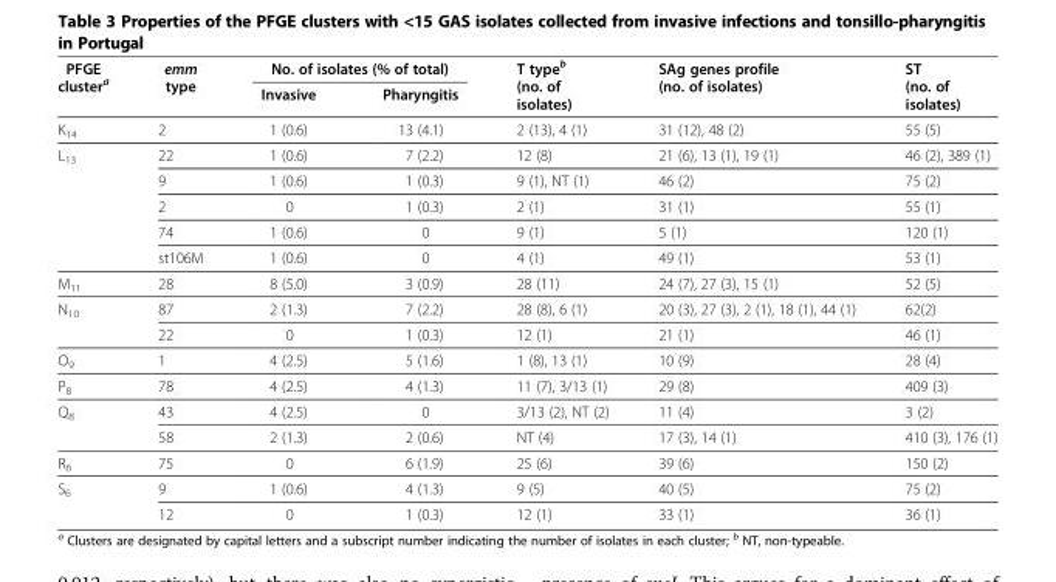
<table><thead><tr><td rowspan="2">PFGE cluster<sup>a</sup></td><td rowspan="2">emm type</td><td colspan="2">No. of isolates (% of total)</td><td rowspan="2">T type<sup>b</sup> (no. of isolates)</td><td rowspan="2">SAg genes profile (no. of isolates)</td><td rowspan="2">ST (no. of isolates)</td></tr><tr><td>Invasive</td><td>Pharyngitis</td></tr></thead><tbody><tr><td>K<sub>14</sub></td><td>2</td><td>1 (0.6)</td><td>13 (4.1)</td><td>2 (13), 4 (1)</td><td>31 (12), 48 (2)</td><td>55 (5)</td></tr><tr><td rowspan="5">L<sub>13</sub></td><td>22</td><td>1 (0.6)</td><td>7 (2.2)</td><td>12 (8)</td><td>21 (6), 13 (1), 19 (1)</td><td>46 (2), 389 (1)</td></tr><tr><td>9</td><td>1 (0.6)</td><td>1 (0.3)</td><td>9 (1), NT (1)</td><td>46 (2)</td><td>75 (2)</td></tr><tr><td>2</td><td>0</td><td>1 (0.3)</td><td>2 (1)</td><td>31 (1)</td><td>55 (1)</td></tr><tr><td>74</td><td>1 (0.6)</td><td>0</td><td>9 (1)</td><td>5 (1)</td><td>120 (1)</td></tr><tr><td>st106M</td><td>1 (0.6)</td><td>0</td><td>4 (1)</td><td>49 (1)</td><td>53 (1)</td></tr><tr><td>M<sub>11</sub></td><td>28</td><td>8 (5.0)</td><td>3 (0.9)</td><td>28 (11)</td><td>24 (7), 27 (3), 15 (1)</td><td>52 (5)</td></tr><tr><td rowspan="2">N<sub>10</sub></td><td>87</td><td>2 (1.3)</td><td>7 (2.2)</td><td>28 (8), 6 (1)</td><td>20 (3), 27 (3), 2 (1), 18 (1), 44 (1)</td><td>62(2)</td></tr><tr><td>22</td><td>0</td><td>1 (0.3)</td><td>12 (1)</td><td>21 (1)</td><td>46 (1)</td></tr><tr><td>O<sub>9</sub></td><td>1</td><td>4 (2.5)</td><td>5 (1.6)</td><td>1 (8), 13 (1)</td><td>10 (9)</td><td>28 (4)</td></tr><tr><td>P<sub>8</sub></td><td>78</td><td>4 (2.5)</td><td>4 (1.3)</td><td>11 (7), 3/13 (1)</td><td>29 (8)</td><td>409 (3)</td></tr><tr><td rowspan="2">Q<sub>8</sub></td><td>43</td><td>4 (2.5)</td><td>0</td><td>3/13 (2), NT (2)</td><td>11 (4)</td><td>3 (2)</td></tr><tr><td>58</td><td>2 (1.3)</td><td>2 (0.6)</td><td>NT (4)</td><td>17 (3), 14 (1)</td><td>410 (3), 176 (1)</td></tr><tr><td>R<sub>6</sub></td><td>75</td><td>0</td><td>6 (1.9)</td><td>25 (6)</td><td>39 (6)</td><td>150 (2)</td></tr><tr><td rowspan="2">S<sub>6</sub></td><td>9</td><td>1 (0.6)</td><td>4 (1.3)</td><td>9 (5)</td><td>40 (5)</td><td>75 (2)</td></tr><tr><td>12</td><td>0</td><td>1 (0.3)</td><td>12 (1)</td><td>33 (1)</td><td>36 (1)</td></tr></tbody></table>